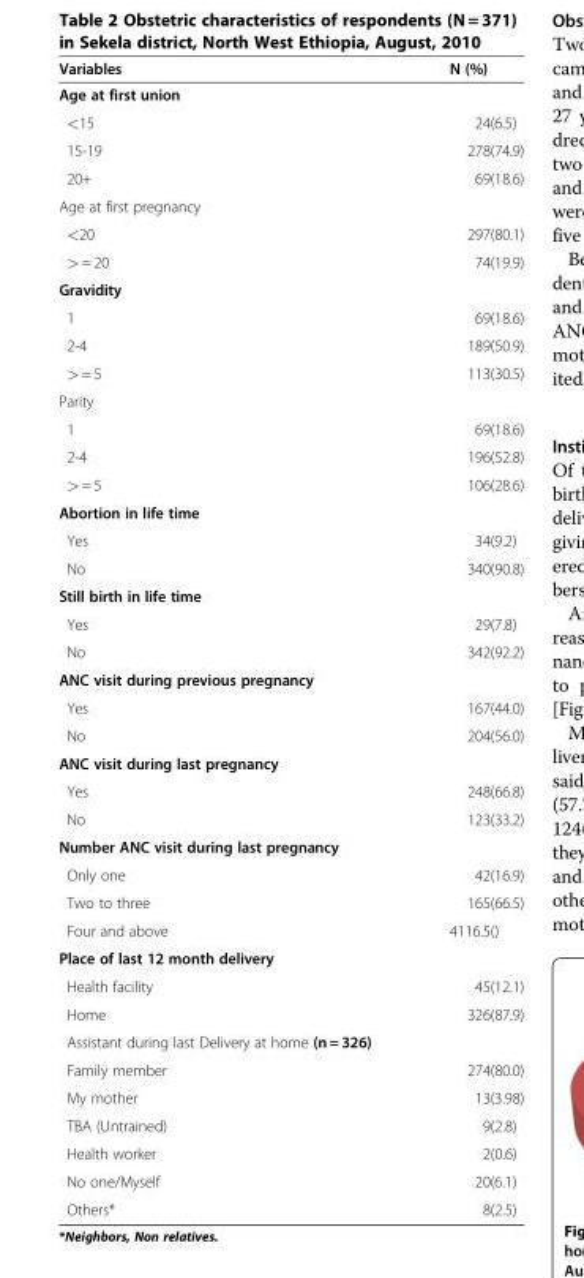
<table><thead><tr><td>Variables</td><td>N (%)</td></tr></thead><tbody><tr><td colspan="2">Age at first union</td></tr><tr><td>&lt;15</td><td>24(6.5)</td></tr><tr><td>15-19</td><td>278(74.9)</td></tr><tr><td>20+</td><td>69(18.6)</td></tr><tr><td colspan="2">Age at first pregnancy</td></tr><tr><td>&lt;20</td><td>297(80.1)</td></tr><tr><td>&gt; = 20</td><td>74(19.9)</td></tr><tr><td colspan="2">Gravidity</td></tr><tr><td>1</td><td>69(18.6)</td></tr><tr><td>2-4</td><td>189(50.9)</td></tr><tr><td>&gt; = 5</td><td>113(30.5)</td></tr><tr><td colspan="2">Parity</td></tr><tr><td>1</td><td>69(18.6)</td></tr><tr><td>2-4</td><td>196(52.8)</td></tr><tr><td>&gt; = 5</td><td>106(28.6)</td></tr><tr><td colspan="2">Abortion in life time</td></tr><tr><td>Yes</td><td>34(9.2)</td></tr><tr><td>No</td><td>340(90.8)</td></tr><tr><td colspan="2">Still birth in life time</td></tr><tr><td>Yes</td><td>29(7.8)</td></tr><tr><td>No</td><td>342(92.2)</td></tr><tr><td colspan="2">ANC visit during previous pregnancy</td></tr><tr><td>Yes</td><td>167(44.0)</td></tr><tr><td>No</td><td>204(56.0)</td></tr><tr><td colspan="2">ANC visit during last pregnancy</td></tr><tr><td>Yes</td><td>248(66.8)</td></tr><tr><td>No</td><td>123(33.2)</td></tr><tr><td colspan="2">Number ANC visit during last pregnancy</td></tr><tr><td>Only one</td><td>42(16.9)</td></tr><tr><td>Two to three</td><td>165(66.5)</td></tr><tr><td>Four and above</td><td>4116.5()</td></tr><tr><td colspan="2">Place of last 12 month delivery</td></tr><tr><td>Health facility</td><td>45(12.1)</td></tr><tr><td>Home</td><td>326(87.9)</td></tr><tr><td colspan="2">Assistant during last Delivery at home (n = 326)</td></tr><tr><td>Family member</td><td>274(80.0)</td></tr><tr><td>My mother</td><td>13(3.98)</td></tr><tr><td>TBA (Untrained)</td><td>9(2.8)</td></tr><tr><td>Health worker</td><td>2(0.6)</td></tr><tr><td>No one/Myself</td><td>20(6.1)</td></tr><tr><td>Others*</td><td>8(2.5)</td></tr></tbody></table>